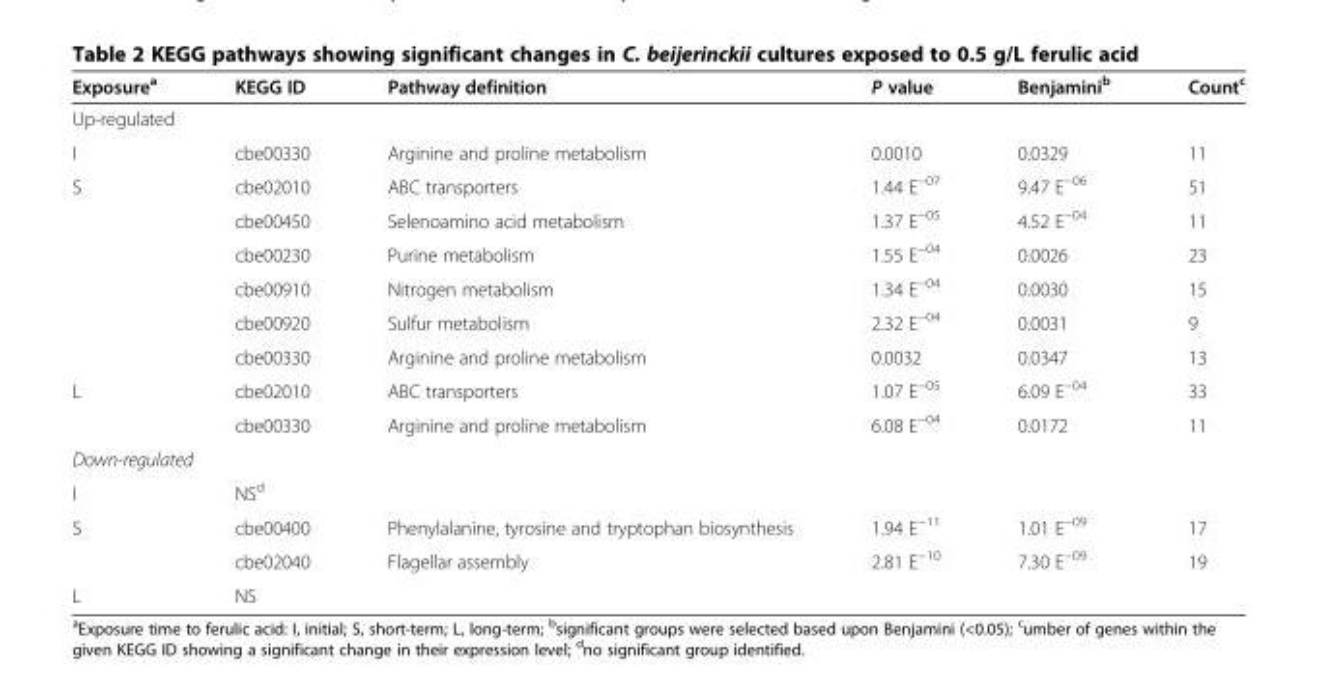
<table><thead><tr><td>Exposure<sup>a</sup></td><td>KEGG ID</td><td>Pathway definition</td><td>P value</td><td>Benjamini<sup>b</sup></td><td>Count<sup>c</sup></td></tr></thead><tbody><tr><td colspan="6">Up-regulated</td></tr><tr><td>I</td><td>cbe00330</td><td>Arginine and proline metabolism</td><td>0.0010</td><td>0.0329</td><td>11</td></tr><tr><td rowspan="6">S</td><td>cbe02010</td><td>ABC transporters</td><td>1.44 E<sup>−07</sup></td><td>9.47 E<sup>−06</sup></td><td>51</td></tr><tr><td>cbe00450</td><td>Selenoamino acid metabolism</td><td>1.37 E<sup>−05</sup></td><td>4.52 E<sup>−04</sup></td><td>11</td></tr><tr><td>cbe00230</td><td>Purine metabolism</td><td>1.55 E<sup>−04</sup></td><td>0.0026</td><td>23</td></tr><tr><td>cbe00910</td><td>Nitrogen metabolism</td><td>1.34 E<sup>−04</sup></td><td>0.0030</td><td>15</td></tr><tr><td>cbe00920</td><td>Sulfur metabolism</td><td>2.32 E<sup>−04</sup></td><td>0.0031</td><td>9</td></tr><tr><td>cbe00330</td><td>Arginine and proline metabolism</td><td>0.0032</td><td>0.0347</td><td>13</td></tr><tr><td rowspan="2">L</td><td>cbe02010</td><td>ABC transporters</td><td>1.07 E<sup>−05</sup></td><td>6.09 E<sup>−04</sup></td><td>33</td></tr><tr><td>cbe00330</td><td>Arginine and proline metabolism</td><td>6.08 E<sup>−04</sup></td><td>0.0172</td><td>11</td></tr><tr><td colspan="6">Down-regulated</td></tr><tr><td>I</td><td>NS<sup>d</sup></td><td></td><td></td><td></td><td></td></tr><tr><td rowspan="2">S</td><td>cbe00400</td><td>Phenylalanine, tyrosine and tryptophan biosynthesis</td><td>1.94 E<sup>−11</sup></td><td>1.01 E<sup>−09</sup></td><td>17</td></tr><tr><td>cbe02040</td><td>Flagellar assembly</td><td>2.81 E<sup>−10</sup></td><td>7.30 E<sup>−09</sup></td><td>19</td></tr><tr><td>L</td><td>NS</td><td></td><td></td><td></td><td></td></tr></tbody></table>